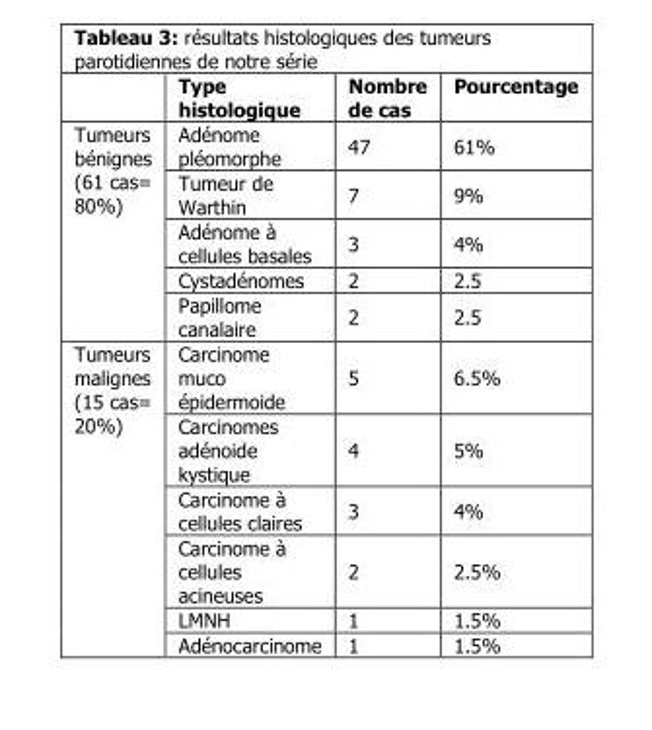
<table><thead><tr><td></td><td>Type histologique</td><td>Nombre de cas</td><td>Pourcentage</td></tr></thead><tbody><tr><td rowspan="5">Tumeurs bénignes (61 cas= 80%)</td><td>Adénome pléomorphe</td><td>47</td><td>61%</td></tr><tr><td>Tumeur de Warthin</td><td>7</td><td>9%</td></tr><tr><td>Adénome à cellules basales</td><td>3</td><td>4%</td></tr><tr><td>Cystadénomes</td><td>2</td><td>2.5</td></tr><tr><td>Papillome canalaire</td><td>2</td><td>2.5</td></tr><tr><td rowspan="6">Tumeurs malignes (15 cas= 20%)</td><td>Carcinome muco épidermoide</td><td>5</td><td>6.5%</td></tr><tr><td>Carcinomes adénoide kystique</td><td>4</td><td>5%</td></tr><tr><td>Carcinome à cellules claires</td><td>3</td><td>4%</td></tr><tr><td>Carcinome à cellules acineuses</td><td>2</td><td>2.5%</td></tr><tr><td>LMNH</td><td>1</td><td>1.5%</td></tr><tr><td>Adénocarcinome</td><td>1</td><td>1.5%</td></tr></tbody></table>